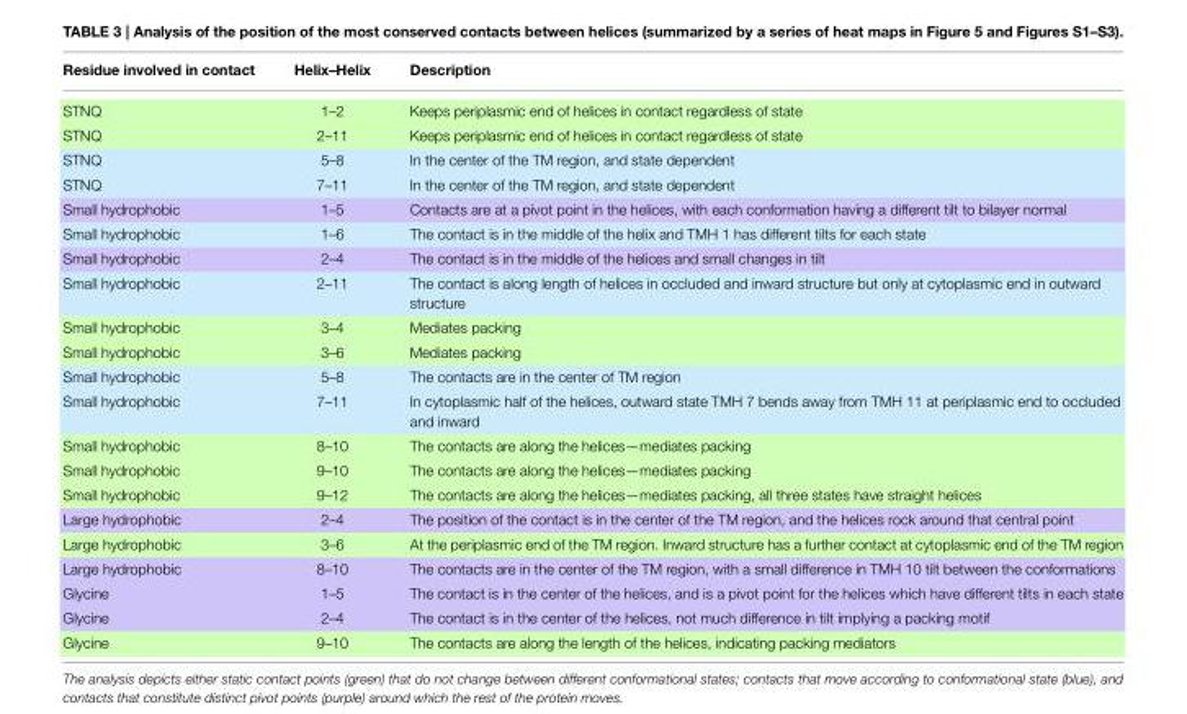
<table><thead><tr><td>Residue involved in contact</td><td>Helix–Helix</td><td>Description</td></tr></thead><tbody><tr><td>STNQ</td><td>1–2</td><td>Keeps periplasmic end of helices in contact regardless of state</td></tr><tr><td>STNQ</td><td>2–11</td><td>Keeps periplasmic end of helices in contact regardless of state</td></tr><tr><td>STNQ</td><td>5–8</td><td>In the center of the TM region, and state dependent</td></tr><tr><td>STNQ</td><td>7–11</td><td>In the center of the TM region, and state dependent</td></tr><tr><td>Small hydrophobic</td><td>1–5</td><td>Contacts are at a pivot point in the helices, with each conformation having a different tilt to bilayer normal</td></tr><tr><td>Small hydrophobic</td><td>1–6</td><td>The contact is in the middle of the helix and TMH 1 has different tilts for each state</td></tr><tr><td>Small hydrophobic</td><td>2–4</td><td>The contact is in the middle of the helices and small changes in tilt</td></tr><tr><td>Small hydrophobic</td><td>2–11</td><td>The contact is along length of helices in occluded and inward structure but only at cytoplasmic end in outward structure</td></tr><tr><td>Small hydrophobic</td><td>3–4</td><td>Mediates packing</td></tr><tr><td>Small hydrophobic</td><td>3–6</td><td>Mediates packing</td></tr><tr><td>Small hydrophobic</td><td>5–8</td><td>The contacts are in the center of TM region</td></tr><tr><td>Small hydrophobic</td><td>7–11</td><td>In cytoplasmic half of the helices, outward state TMH 7 bends away from TMH 11 at periplasmic end to occluded and inward</td></tr><tr><td>Small hydrophobic</td><td>8–10</td><td>The contacts are along the helices—mediates packing</td></tr><tr><td>Small hydrophobic</td><td>9–10</td><td>The contacts are along the helices—mediates packing</td></tr><tr><td>Small hydrophobic</td><td>9–12</td><td>The contacts are along the helices—mediates packing, all three states have straight helices</td></tr><tr><td>Large hydrophobic</td><td>2–4</td><td>The position of the contact is in the center of the TM region, and the helices rock around that central point</td></tr><tr><td>Large hydrophobic</td><td>3–6</td><td>At the periplasmic end of the TM region. Inward structure has a further contact at cytoplasmic end of the TM region</td></tr><tr><td>Large hydrophobic</td><td>8–10</td><td>The contacts are in the center of the TM region, with a small difference in TMH 10 tilt between the conformations</td></tr><tr><td>Glycine</td><td>1–5</td><td>The contact is in the center of the helices, and is a pivot point for the helices which have different tilts in each state</td></tr><tr><td>Glycine</td><td>2–4</td><td>The contact is in the center of the helices, not much difference in tilt implying a packing motif</td></tr><tr><td>Glycine</td><td>9–10</td><td>The contacts are along the length of the helices, indicating packing mediators</td></tr></tbody></table>